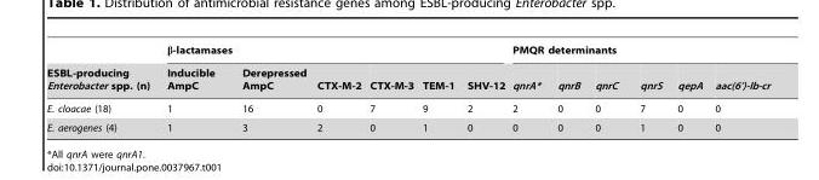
<table><thead><tr><td rowspan="2">ESBL-producing Enterobacter spp. (n)</td><td colspan="6">β-lactamases</td><td colspan="6">PMQR determinants</td></tr><tr><td>Inducible AmpC</td><td>Derepressed AmpC</td><td>CTX-M-2</td><td>CTX-M-3</td><td>TEM-1</td><td>SHV-12</td><td>qnrA*</td><td>qnrB</td><td>qnrC</td><td>qnrS</td><td>qepA</td><td>aac(6’)-Ib-cr</td></tr></thead><tbody><tr><td>E. cloacae (18)</td><td>1</td><td>16</td><td>0</td><td>7</td><td>9</td><td>2</td><td>2</td><td>0</td><td>0</td><td>7</td><td>0</td><td>0</td></tr><tr><td>E. aerogenes (4)</td><td>1</td><td>3</td><td>2</td><td>0</td><td>1</td><td>0</td><td>0</td><td>0</td><td>0</td><td>1</td><td>0</td><td>0</td></tr></tbody></table>